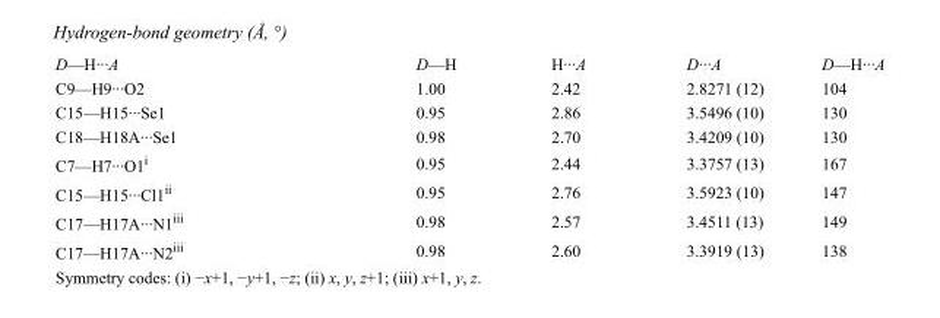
<table><tbody><tr><td>D—H···A</td><td>D—H</td><td>H···A</td><td>D···A</td><td>D—H···A</td></tr><tr><td>C9—H9···O2</td><td>1.00</td><td>2.42</td><td>2.8271 (12)</td><td>104</td></tr><tr><td>C15—H15···Se1</td><td>0.95</td><td>2.86</td><td>3.5496 (10)</td><td>130</td></tr><tr><td>C18—H18A···Se1</td><td>0.98</td><td>2.70</td><td>3.4209 (10)</td><td>130</td></tr><tr><td>C7—H7···O1<sup>i</sup></td><td>0.95</td><td>2.44</td><td>3.3757 (13)</td><td>167</td></tr><tr><td>C15—H15···Cl1<sup>ii</sup></td><td>0.95</td><td>2.76</td><td>3.5923 (10)</td><td>147</td></tr><tr><td>C17—H17A···N1<sup>iii</sup></td><td>0.98</td><td>2.57</td><td>3.4511 (13)</td><td>149</td></tr><tr><td>C17—H17A···N2<sup>iii</sup></td><td>0.98</td><td>2.60</td><td>3.3919 (13)</td><td>138</td></tr></tbody></table>